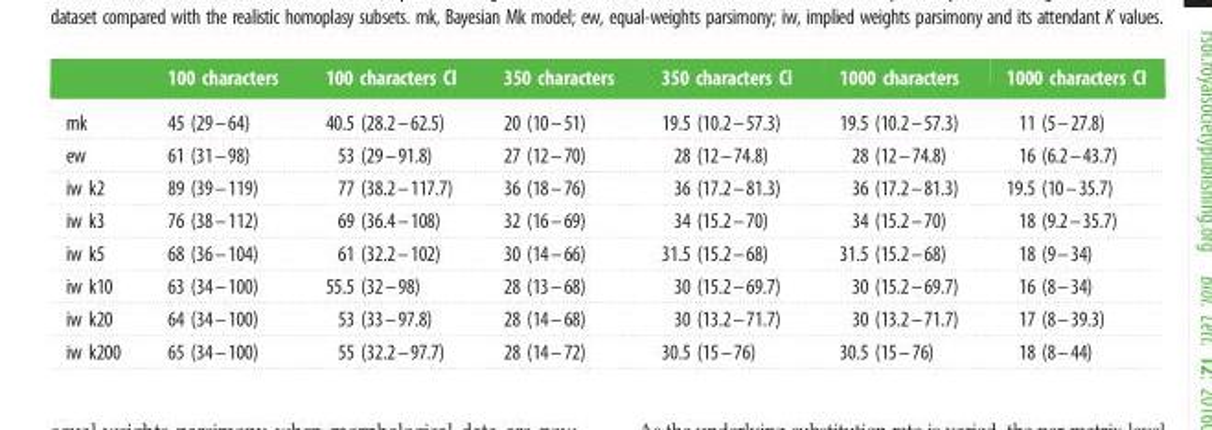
<table><thead><tr><td></td><td>100 characters</td><td>100 characters CI</td><td>350 characters</td><td>350 characters CI</td><td>1000 characters</td><td>1000 characters CI</td></tr></thead><tbody><tr><td>mk</td><td>45 (29–64)</td><td>40.5 (28.2–62.5)</td><td>20 (10–51)</td><td>19.5 (10.2–57.3)</td><td>19.5 (10.2–57.3)</td><td>11 (5–27.8)</td></tr><tr><td>ew</td><td>61 (31–98)</td><td>53 (29–91.8)</td><td>27 (12–70)</td><td>28 (12–74.8)</td><td>28 (12–74.8)</td><td>16 (6.2–43.7)</td></tr><tr><td>iw k2</td><td>89 (39–119)</td><td>77 (38.2–117.7)</td><td>36 (18–76)</td><td>36 (17.2–81.3)</td><td>36 (17.2–81.3)</td><td>19.5 (10–35.7)</td></tr><tr><td>iw k3</td><td>76 (38–112)</td><td>69 (36.4–108)</td><td>32 (16–69)</td><td>34 (15.2–70)</td><td>34 (15.2–70)</td><td>18 (9.2–35.7)</td></tr><tr><td>iw k5</td><td>68 (36–104)</td><td>61 (32.2–102)</td><td>30 (14–66)</td><td>31.5 (15.2–68)</td><td>31.5 (15.2–68)</td><td>18 (9–34)</td></tr><tr><td>iw k10</td><td>63 (34–100)</td><td>55.5 (32–98)</td><td>28 (13–68)</td><td>30 (15.2–69.7)</td><td>30 (15.2–69.7)</td><td>16 (8–34)</td></tr><tr><td>iw k20</td><td>64 (34–100)</td><td>53 (33–97.8)</td><td>28 (14–68)</td><td>30 (13.2–71.7)</td><td>30 (13.2–71.7)</td><td>17 (8–39.3)</td></tr><tr><td>iw k200</td><td>65 (34–100)</td><td>55 (32.2–97.7)</td><td>28 (14–72)</td><td>30.5 (15–76)</td><td>30.5 (15–76)</td><td>18 (8–44)</td></tr></tbody></table>